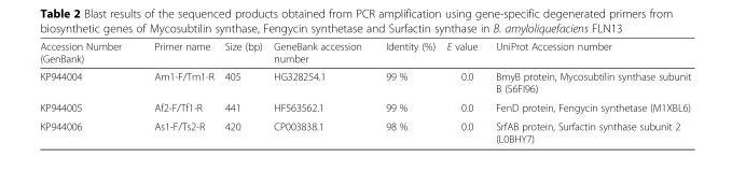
<table><thead><tr><td>Accession Number (GenBank)</td><td>Primer name</td><td>Size (bp)</td><td>GeneBank accession number</td><td>Identity (%)</td><td>E value</td><td>UniProt Accession number</td></tr></thead><tbody><tr><td>KP944004</td><td>Am1-F/Tm1-R</td><td>405</td><td>HG328254.1</td><td>99 %</td><td>0.0</td><td>BmyB protein, Mycosubtilin synthase subunit B (S6FI96)</td></tr><tr><td>KP944005</td><td>Af2-F/Tf1-R</td><td>441</td><td>HF563562.1</td><td>99 %</td><td>0.0</td><td>FenD protein, Fengycin synthetase (M1XBL6)</td></tr><tr><td>KP944006</td><td>As1-F/Ts2-R</td><td>420</td><td>CP003838.1</td><td>98 %</td><td>0.0</td><td>SrfAB protein, Surfactin synthase subunit 2 (L0BHY7)</td></tr></tbody></table>